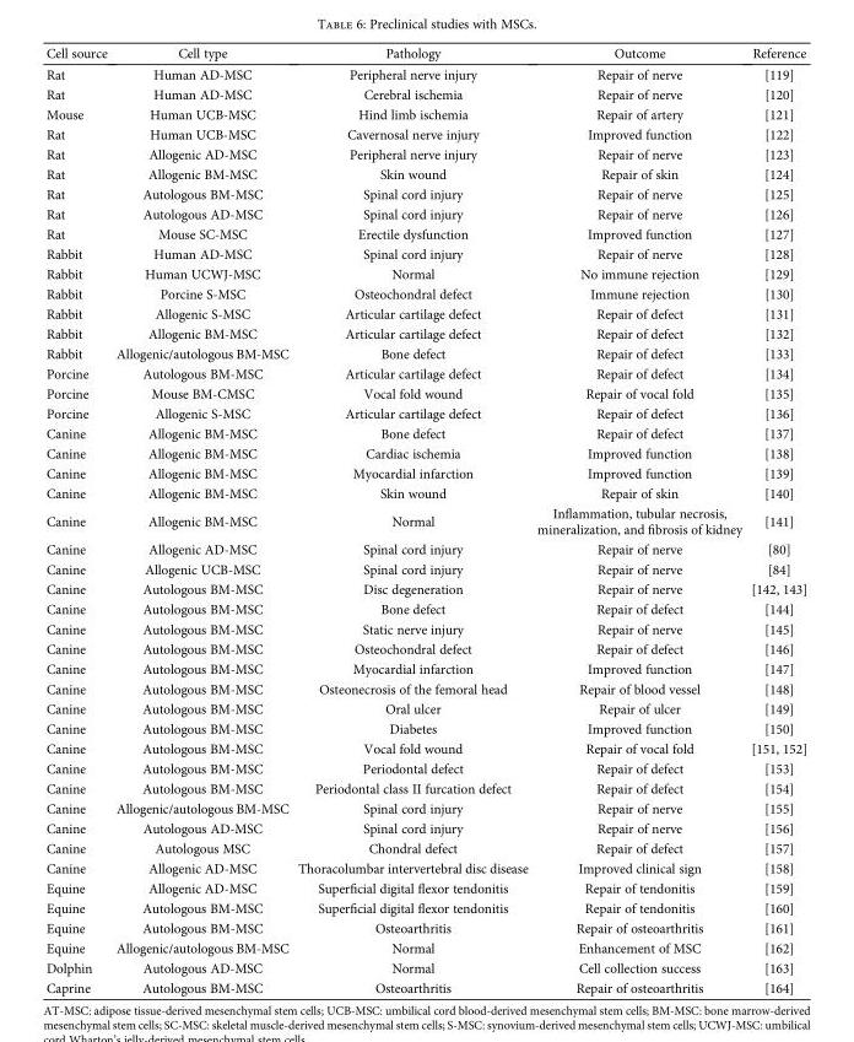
<table><thead><tr><td>Cell source</td><td>Cell type</td><td>Pathology</td><td>Outcome</td><td>Reference</td></tr></thead><tbody><tr><td>Rat</td><td>Human AD-MSC</td><td>Peripheral nerve injury</td><td>Repair of nerve</td><td>[119]</td></tr><tr><td>Rat</td><td>Human AD-MSC</td><td>Cerebral ischemia</td><td>Repair of nerve</td><td>[120]</td></tr><tr><td>Mouse</td><td>Human UCB-MSC</td><td>Hind limb ischemia</td><td>Repair of artery</td><td>[121]</td></tr><tr><td>Rat</td><td>Human UCB-MSC</td><td>Cavernosal nerve injury</td><td>Improved function</td><td>[122]</td></tr><tr><td>Rat</td><td>Allogenic AD-MSC</td><td>Peripheral nerve injury</td><td>Repair of nerve</td><td>[123]</td></tr><tr><td>Rat</td><td>Allogenic BM-MSC</td><td>Skin wound</td><td>Repair of skin</td><td>[124]</td></tr><tr><td>Rat</td><td>Autologous BM-MSC</td><td>Spinal cord injury</td><td>Repair of nerve</td><td>[125]</td></tr><tr><td>Rat</td><td>Autologous AD-MSC</td><td>Spinal cord injury</td><td>Repair of nerve</td><td>[126]</td></tr><tr><td>Rat</td><td>Mouse SC-MSC</td><td>Erectile dysfunction</td><td>Improved function</td><td>[127]</td></tr><tr><td>Rabbit</td><td>Human AD-MSC</td><td>Spinal cord injury</td><td>Repair of nerve</td><td>[128]</td></tr><tr><td>Rabbit</td><td>Human UCWJ-MSC</td><td>Normal</td><td>No immune rejection</td><td>[129]</td></tr><tr><td>Rabbit</td><td>Porcine S-MSC</td><td>Osteochondral defect</td><td>Immune rejection</td><td>[130]</td></tr><tr><td>Rabbit</td><td>Allogenic S-MSC</td><td>Articular cartilage defect</td><td>Repair of defect</td><td>[131]</td></tr><tr><td>Rabbit</td><td>Allogenic BM-MSC</td><td>Articular cartilage defect</td><td>Repair of defect</td><td>[132]</td></tr><tr><td>Rabbit</td><td>Allogenic/autologous BM-MSC</td><td>Bone defect</td><td>Repair of defect</td><td>[133]</td></tr><tr><td>Porcine</td><td>Autologous BM-MSC</td><td>Articular cartilage defect</td><td>Repair of defect</td><td>[134]</td></tr><tr><td>Porcine</td><td>Mouse BM-CMSC</td><td>Vocal fold wound</td><td>Repair of vocal fold</td><td>[135]</td></tr><tr><td>Porcine</td><td>Allogenic S-MSC</td><td>Articular cartilage defect</td><td>Repair of defect</td><td>[136]</td></tr><tr><td>Canine</td><td>Allogenic BM-MSC</td><td>Bone defect</td><td>Repair of defect</td><td>[137]</td></tr><tr><td>Canine</td><td>Allogenic BM-MSC</td><td>Cardiac ischemia</td><td>Improved function</td><td>[138]</td></tr><tr><td>Canine</td><td>Allogenic BM-MSC</td><td>Myocardial infarction</td><td>Improved function</td><td>[139]</td></tr><tr><td>Canine</td><td>Allogenic BM-MSC</td><td>Skin wound</td><td>Repair of skin</td><td>[140]</td></tr><tr><td>Canine</td><td>Allogenic BM-MSC</td><td>Normal</td><td>Inflammation, tubular necrosis, mineralization, and fibrosis of kidney</td><td>[141]</td></tr><tr><td>Canine</td><td>Allogenic AD-MSC</td><td>Spinal cord injury</td><td>Repair of nerve</td><td>[80]</td></tr><tr><td>Canine</td><td>Allogenic UCB-MSC</td><td>Spinal cord injury</td><td>Repair of nerve</td><td>[84]</td></tr><tr><td>Canine</td><td>Autologous BM-MSC</td><td>Disc degeneration</td><td>Repair of nerve</td><td>[142, 143]</td></tr><tr><td>Canine</td><td>Autologous BM-MSC</td><td>Bone defect</td><td>Repair of defect</td><td>[144]</td></tr><tr><td>Canine</td><td>Autologous BM-MSC</td><td>Static nerve injury</td><td>Repair of nerve</td><td>[145]</td></tr><tr><td>Canine</td><td>Autologous BM-MSC</td><td>Osteochondral defect</td><td>Repair of defect</td><td>[146]</td></tr><tr><td>Canine</td><td>Autologous BM-MSC</td><td>Myocardial infarction</td><td>Improved function</td><td>[147]</td></tr><tr><td>Canine</td><td>Autologous BM-MSC</td><td>Osteonecrosis of the femoral head</td><td>Repair of blood vessel</td><td>[148]</td></tr><tr><td>Canine</td><td>Autologous BM-MSC</td><td>Oral ulcer</td><td>Repair of ulcer</td><td>[149]</td></tr><tr><td>Canine</td><td>Autologous BM-MSC</td><td>Diabetes</td><td>Improved function</td><td>[150]</td></tr><tr><td>Canine</td><td>Autologous BM-MSC</td><td>Vocal fold wound</td><td>Repair of vocal fold</td><td>[151, 152]</td></tr><tr><td>Canine</td><td>Autologous BM-MSC</td><td>Periodontal defect</td><td>Repair of defect</td><td>[153]</td></tr><tr><td>Canine</td><td>Autologous BM-MSC</td><td>Periodontal class II furcation defect</td><td>Repair of defect</td><td>[154]</td></tr><tr><td>Canine</td><td>Allogenic/autologous BM-MSC</td><td>Spinal cord injury</td><td>Repair of nerve</td><td>[155]</td></tr><tr><td>Canine</td><td>Autologous AD-MSC</td><td>Spinal cord injury</td><td>Repair of nerve</td><td>[156]</td></tr><tr><td>Canine</td><td>Autologous MSC</td><td>Chondral defect</td><td>Repair of defect</td><td>[157]</td></tr><tr><td>Canine</td><td>Allogenic AD-MSC</td><td>Thoracolumbar intervertebral disc disease</td><td>Improved clinical sign</td><td>[158]</td></tr><tr><td>Equine</td><td>Allogenic AD-MSC</td><td>Superficial digital flexor tendonitis</td><td>Repair of tendonitis</td><td>[159]</td></tr><tr><td>Equine</td><td>Autologous BM-MSC</td><td>Superficial digital flexor tendonitis</td><td>Repair of tendonitis</td><td>[160]</td></tr><tr><td>Equine</td><td>Autologous BM-MSC</td><td>Osteoarthritis</td><td>Repair of osteoarthritis</td><td>[161]</td></tr><tr><td>Equine</td><td>Allogenic/autologous BM-MSC</td><td>Normal</td><td>Enhancement of MSC</td><td>[162]</td></tr><tr><td>Dolphin</td><td>Autologous AD-MSC</td><td>Normal</td><td>Cell collection success</td><td>[163]</td></tr><tr><td>Caprine</td><td>Autologous BM-MSC</td><td>Osteoarthritis</td><td>Repair of osteoarthritis</td><td>[164]</td></tr></tbody></table>